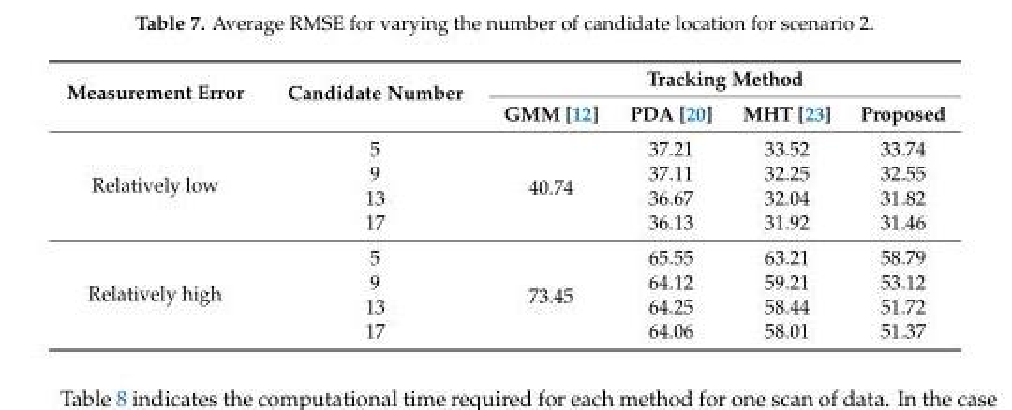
<table><thead><tr><td rowspan="2">Measurement Error</td><td rowspan="2">Candidate Number</td><td colspan="4">Tracking Method</td></tr><tr><td>GMM [12]</td><td>PDA [20]</td><td>MHT [23]</td><td>Proposed</td></tr></thead><tbody><tr><td rowspan="4">Relatively low</td><td>5</td><td rowspan="4">40.74</td><td>37.21</td><td>33.52</td><td>33.74</td></tr><tr><td>9</td><td>37.11</td><td>32.25</td><td>32.55</td></tr><tr><td>13</td><td>36.67</td><td>32.04</td><td>31.82</td></tr><tr><td>17</td><td>36.13</td><td>31.92</td><td>31.46</td></tr><tr><td rowspan="4">Relatively high</td><td>5</td><td rowspan="4">73.45</td><td>65.55</td><td>63.21</td><td>58.79</td></tr><tr><td>9</td><td>64.12</td><td>59.21</td><td>53.12</td></tr><tr><td>13</td><td>64.25</td><td>58.44</td><td>51.72</td></tr><tr><td>17</td><td>64.06</td><td>58.01</td><td>51.37</td></tr></tbody></table>